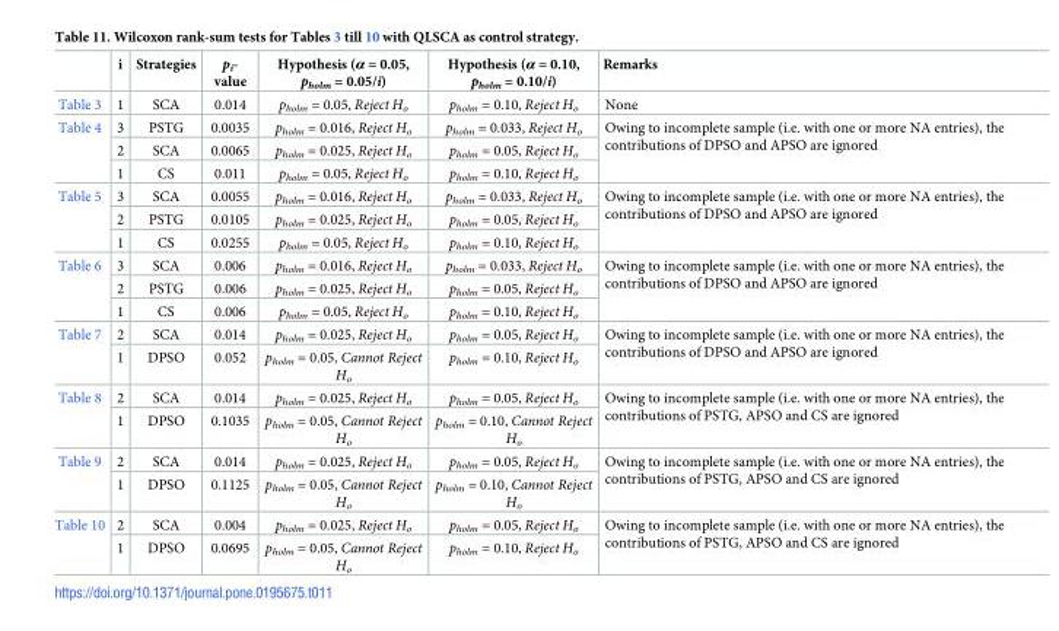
<table><thead><tr><td></td><td>i</td><td>Strategies</td><td>p<sub>i</sub>- value</td><td>Hypothesis (α = 0.05, p<sub>holm</sub> = 0.05/i)</td><td>Hypothesis (α = 0.10, p<sub>holm</sub> = 0.10/i)</td><td>Remarks</td></tr></thead><tbody><tr><td>Table 3</td><td>1</td><td>SCA</td><td>0.014</td><td>p<sub>holm</sub> = 0.05, Reject H<sub>o</sub></td><td>p<sub>holm</sub> = 0.10, Reject H<sub>o</sub></td><td>None</td></tr><tr><td rowspan="3">Table 4</td><td>3</td><td>PSTG</td><td>0.0035</td><td>p<sub>holm</sub> = 0.016, Reject H<sub>o</sub></td><td>p<sub>holm</sub> = 0.033, Reject H<sub>o</sub></td><td rowspan="3">Owing to incomplete sample (i.e. with one or more NA entries), the contributions of DPSO and APSO are ignored</td></tr><tr><td>2</td><td>SCA</td><td>0.0065</td><td>p<sub>holm</sub> = 0.025, Reject H<sub>o</sub></td><td>p<sub>holm</sub> = 0.05, Reject H<sub>o</sub></td></tr><tr><td>1</td><td>CS</td><td>0.011</td><td>p<sub>holm</sub> = 0.05, Reject H<sub>o</sub></td><td>p<sub>holm</sub> = 0.10, Reject H<sub>o</sub></td></tr><tr><td rowspan="3">Table 5</td><td>3</td><td>SCA</td><td>0.0055</td><td>p<sub>holm</sub> = 0.016, Reject H<sub>o</sub></td><td>p<sub>holm</sub> = 0.033, Reject H<sub>o</sub></td><td rowspan="3">Owing to incomplete sample (i.e. with one or more NA entries), the contributions of DPSO and APSO are ignored</td></tr><tr><td>2</td><td>PSTG</td><td>0.0105</td><td>p<sub>holm</sub> = 0.025, Reject H<sub>o</sub></td><td>p<sub>holm</sub> = 0.05, Reject H<sub>o</sub></td></tr><tr><td>1</td><td>CS</td><td>0.0255</td><td>p<sub>holm</sub> = 0.05, Reject H<sub>o</sub></td><td>p<sub>holm</sub> = 0.10, Reject H<sub>o</sub></td></tr><tr><td rowspan="3">Table 6</td><td>3</td><td>SCA</td><td>0.006</td><td>p<sub>holm</sub> = 0.016, Reject H<sub>o</sub></td><td>p<sub>holm</sub> = 0.033, Reject H<sub>o</sub></td><td rowspan="3">Owing to incomplete sample (i.e. with one or more NA entries), the contributions of DPSO and APSO are ignored</td></tr><tr><td>2</td><td>PSTG</td><td>0.006</td><td>p<sub>holm</sub> = 0.025, Reject H<sub>o</sub></td><td>p<sub>holm</sub> = 0.05, Reject H<sub>o</sub></td></tr><tr><td>1</td><td>CS</td><td>0.006</td><td>p<sub>holm</sub> = 0.05, Reject H<sub>o</sub></td><td>p<sub>holm</sub> = 0.10, Reject H<sub>o</sub></td></tr><tr><td rowspan="2">Table 7</td><td>2</td><td>SCA</td><td>0.014</td><td>p<sub>holm</sub> = 0.025, Reject H<sub>o</sub></td><td>p<sub>holm</sub> = 0.05, Reject H<sub>o</sub></td><td rowspan="2">Owing to incomplete sample (i.e. with one or more NA entries), the contributions of DPSO and APSO are ignored</td></tr><tr><td>1</td><td>DPSO</td><td>0.052</td><td>p<sub>holm</sub> = 0.05, Cannot Reject H<sub>o</sub></td><td>p<sub>holm</sub> = 0.10, Reject H<sub>o</sub></td></tr><tr><td rowspan="2">Table 8</td><td>2</td><td>SCA</td><td>0.014</td><td>p<sub>holm</sub> = 0.025, Reject H<sub>o</sub></td><td>p<sub>holm</sub> = 0.05, Reject H<sub>o</sub></td><td rowspan="2">Owing to incomplete sample (i.e. with one or more NA entries), the contributions of PSTG, APSO and CS are ignored</td></tr><tr><td>1</td><td>DPSO</td><td>0.1035</td><td>p<sub>holm</sub> = 0.05, Cannot Reject H<sub>o</sub></td><td>p<sub>holm</sub> = 0.10, Cannot Reject H<sub>o</sub></td></tr><tr><td rowspan="2">Table 9</td><td>2</td><td>SCA</td><td>0.014</td><td>p<sub>holm</sub> = 0.025, Reject H<sub>o</sub></td><td>p<sub>holm</sub> = 0.05, Reject H<sub>o</sub></td><td rowspan="2">Owing to incomplete sample (i.e. with one or more NA entries), the contributions of PSTG, APSO and CS are ignored</td></tr><tr><td>1</td><td>DPSO</td><td>0.1125</td><td>p<sub>holm</sub> = 0.05, Cannot Reject H<sub>o</sub></td><td>p<sub>holm</sub> = 0.10, Cannot Reject H<sub>o</sub></td></tr><tr><td rowspan="2">Table 10</td><td>2</td><td>SCA</td><td>0.004</td><td>p<sub>holm</sub> = 0.025, Reject H<sub>o</sub></td><td>p<sub>holm</sub> = 0.05, Reject H<sub>o</sub></td><td rowspan="2">Owing to incomplete sample (i.e. with one or more NA entries), the contributions of PSTG, APSO and CS are ignored</td></tr><tr><td>1</td><td>DPSO</td><td>0.0695</td><td>p<sub>holm</sub> = 0.05, Cannot Reject H<sub>o</sub></td><td>p<sub>holm</sub> = 0.10, Reject H<sub>o</sub></td></tr></tbody></table>